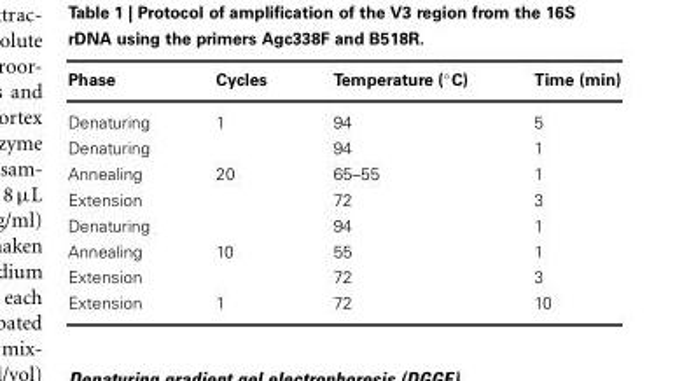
<table><thead><tr><td>Phase</td><td>Cycles</td><td>Temperature (◦C)</td><td>Time (min)</td></tr></thead><tbody><tr><td>Denaturing</td><td>1</td><td>94</td><td>5</td></tr><tr><td>Denaturing</td><td></td><td>94</td><td>1</td></tr><tr><td>Annealing</td><td>20</td><td>65–55</td><td>1</td></tr><tr><td>Extension</td><td></td><td>72</td><td>3</td></tr><tr><td>Denaturing</td><td></td><td>94</td><td>1</td></tr><tr><td>Annealing</td><td>10</td><td>55</td><td>1</td></tr><tr><td>Extension</td><td></td><td>72</td><td>3</td></tr><tr><td>Extension</td><td>1</td><td>72</td><td>10</td></tr></tbody></table>